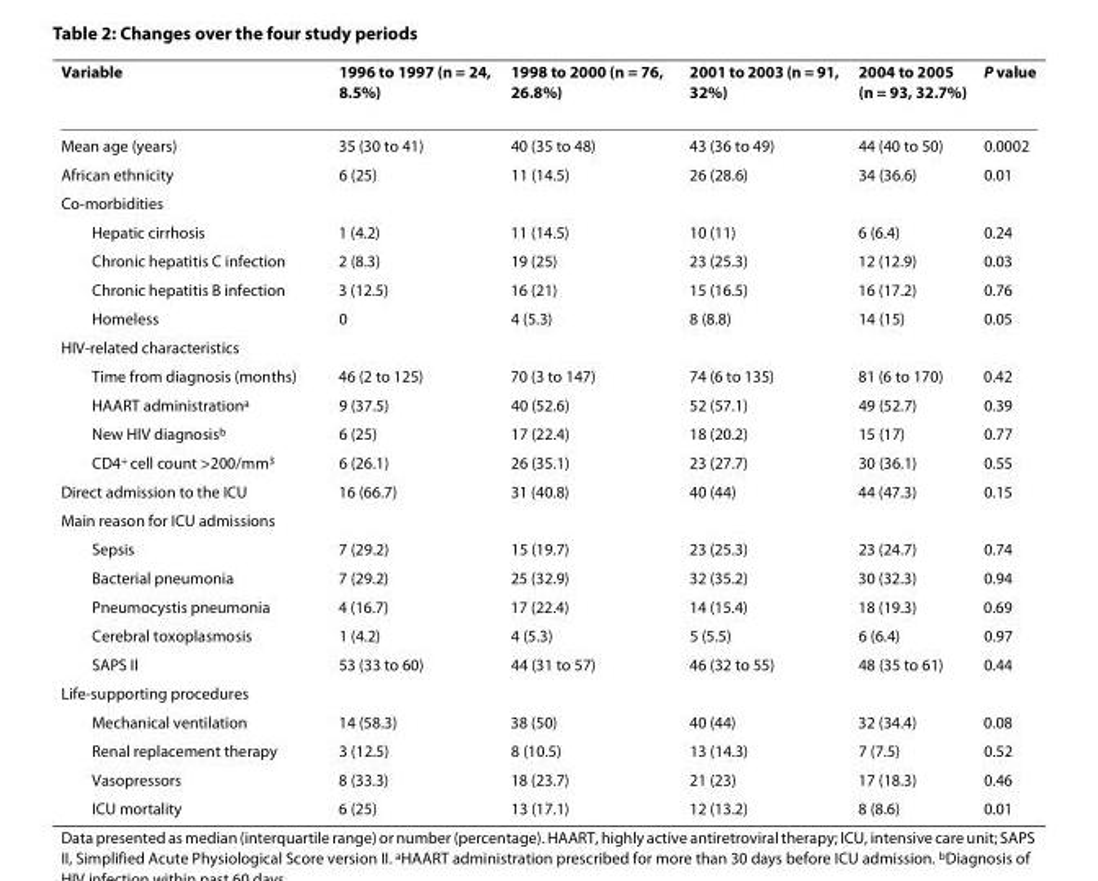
<table><thead><tr><td>Variable</td><td>1996 to 1997 (n = 24, 8.5%)</td><td>1998 to 2000 (n = 76, 26.8%)</td><td>2001 to 2003 (n = 91, 32%)</td><td>2004 to 2005 (n = 93, 32.7%)</td><td>P value</td></tr></thead><tbody><tr><td>Mean age (years)</td><td>35 (30 to 41)</td><td>40 (35 to 48)</td><td>43 (36 to 49)</td><td>44 (40 to 50)</td><td>0.0002</td></tr><tr><td>African ethnicity</td><td>6 (25)</td><td>11 (14.5)</td><td>26 (28.6)</td><td>34 (36.6)</td><td>0.01</td></tr><tr><td colspan="6">Co-morbidities</td></tr><tr><td>Hepatic cirrhosis</td><td>1 (4.2)</td><td>11 (14.5)</td><td>10 (11)</td><td>6 (6.4)</td><td>0.24</td></tr><tr><td>Chronic hepatitis C infection</td><td>2 (8.3)</td><td>19 (25)</td><td>23 (25.3)</td><td>12 (12.9)</td><td>0.03</td></tr><tr><td>Chronic hepatitis B infection</td><td>3 (12.5)</td><td>16 (21)</td><td>15 (16.5)</td><td>16 (17.2)</td><td>0.76</td></tr><tr><td>Homeless</td><td>0</td><td>4 (5.3)</td><td>8 (8.8)</td><td>14 (15)</td><td>0.05</td></tr><tr><td colspan="6">HIV-related characteristics</td></tr><tr><td>Time from diagnosis (months)</td><td>46 (2 to 125)</td><td>70 (3 to 147)</td><td>74 (6 to 135)</td><td>81 (6 to 170)</td><td>0.42</td></tr><tr><td>HAART administration<sup>a</sup></td><td>9 (37.5)</td><td>40 (52.6)</td><td>52 (57.1)</td><td>49 (52.7)</td><td>0.39</td></tr><tr><td>New HIV diagnosis<sup>b</sup></td><td>6 (25)</td><td>17 (22.4)</td><td>18 (20.2)</td><td>15 (17)</td><td>0.77</td></tr><tr><td>CD4<sup>+</sup> cell count &gt;200/mm<sup>3</sup></td><td>6 (26.1)</td><td>26 (35.1)</td><td>23 (27.7)</td><td>30 (36.1)</td><td>0.55</td></tr><tr><td>Direct admission to the ICU</td><td>16 (66.7)</td><td>31 (40.8)</td><td>40 (44)</td><td>44 (47.3)</td><td>0.15</td></tr><tr><td colspan="6">Main reason for ICU admissions</td></tr><tr><td>Sepsis</td><td>7 (29.2)</td><td>15 (19.7)</td><td>23 (25.3)</td><td>23 (24.7)</td><td>0.74</td></tr><tr><td>Bacterial pneumonia</td><td>7 (29.2)</td><td>25 (32.9)</td><td>32 (35.2)</td><td>30 (32.3)</td><td>0.94</td></tr><tr><td>Pneumocystis pneumonia</td><td>4 (16.7)</td><td>17 (22.4)</td><td>14 (15.4)</td><td>18 (19.3)</td><td>0.69</td></tr><tr><td>Cerebral toxoplasmosis</td><td>1 (4.2)</td><td>4 (5.3)</td><td>5 (5.5)</td><td>6 (6.4)</td><td>0.97</td></tr><tr><td>SAPS II</td><td>53 (33 to 60)</td><td>44 (31 to 57)</td><td>46 (32 to 55)</td><td>48 (35 to 61)</td><td>0.44</td></tr><tr><td colspan="6">Life-supporting procedures</td></tr><tr><td>Mechanical ventilation</td><td>14 (58.3)</td><td>38 (50)</td><td>40 (44)</td><td>32 (34.4)</td><td>0.08</td></tr><tr><td>Renal replacement therapy</td><td>3 (12.5)</td><td>8 (10.5)</td><td>13 (14.3)</td><td>7 (7.5)</td><td>0.52</td></tr><tr><td>Vasopressors</td><td>8 (33.3)</td><td>18 (23.7)</td><td>21 (23)</td><td>17 (18.3)</td><td>0.46</td></tr><tr><td>ICU mortality</td><td>6 (25)</td><td>13 (17.1)</td><td>12 (13.2)</td><td>8 (8.6)</td><td>0.01</td></tr></tbody></table>